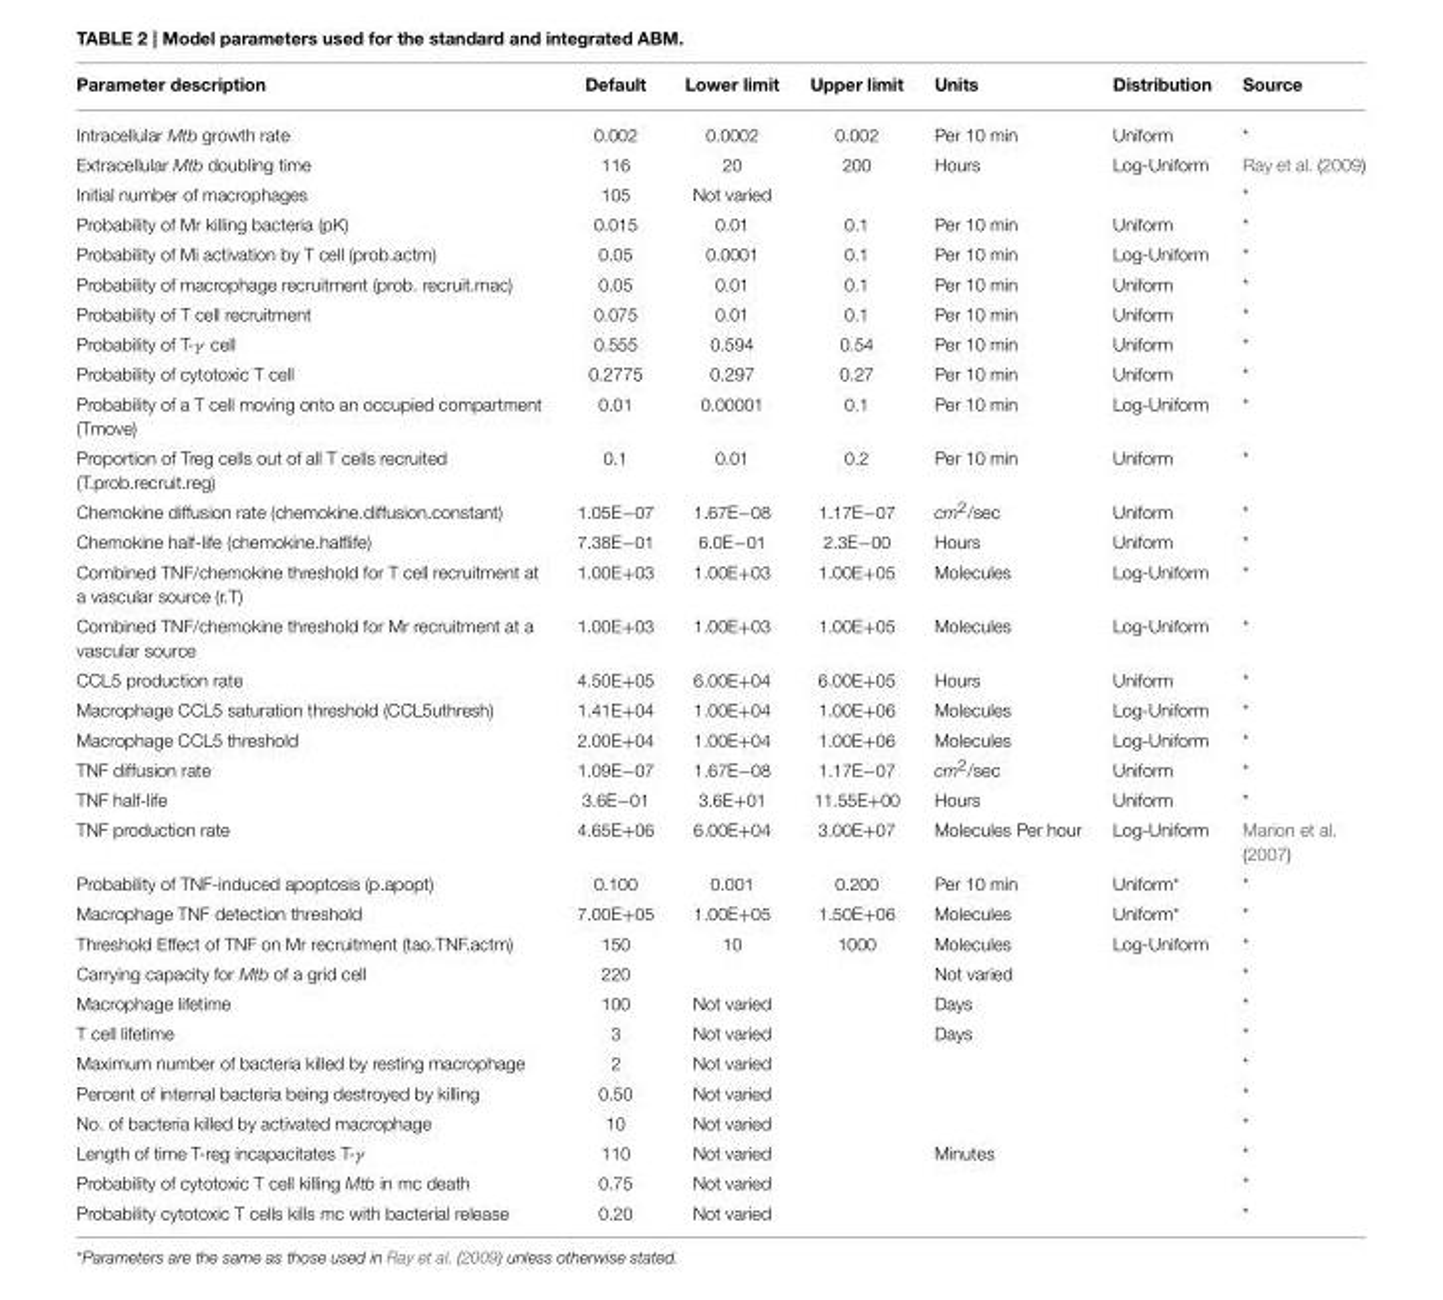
<table><thead><tr><td>Parameter description</td><td>Default</td><td>Lower limit</td><td>Upper limit</td><td>Units</td><td>Distribution</td><td>Source</td></tr></thead><tbody><tr><td>Intracellular Mtb growth rate</td><td>0.002</td><td>0.0002</td><td>0.002</td><td>Per 10 min</td><td>Uniform</td><td>*</td></tr><tr><td>Extracellular Mtb doubling time</td><td>116</td><td>20</td><td>200</td><td>Hours</td><td>Log-Uniform</td><td>Ray et al. (2009)</td></tr><tr><td>Initial number of macrophages</td><td>105</td><td>Not varied</td><td></td><td></td><td></td><td>*</td></tr><tr><td>Probability of Mr killing bacteria (pK)</td><td>0.015</td><td>0.01</td><td>0.1</td><td>Per 10 min</td><td>Uniform</td><td>*</td></tr><tr><td>Probability of Mi activation by T cell (prob.actm)</td><td>0.05</td><td>0.0001</td><td>0.1</td><td>Per 10 min</td><td>Log-Uniform</td><td>*</td></tr><tr><td>Probability of macrophage recruitment (prob. recruit.mac)</td><td>0.05</td><td>0.01</td><td>0.1</td><td>Per 10 min</td><td>Uniform</td><td>*</td></tr><tr><td>Probability of T cell recruitment</td><td>0.075</td><td>0.01</td><td>0.1</td><td>Per 10 min</td><td>Uniform</td><td>*</td></tr><tr><td>Probability of T-γ cell</td><td>0.555</td><td>0.594</td><td>0.54</td><td>Per 10 min</td><td>Uniform</td><td>*</td></tr><tr><td>Probability of cytotoxic T cell</td><td>0.2775</td><td>0.297</td><td>0.27</td><td>Per 10 min</td><td>Uniform</td><td>*</td></tr><tr><td>Probability of a T cell moving onto an occupied compartment (Tmove)</td><td>0.01</td><td>0.00001</td><td>0.1</td><td>Per 10 min</td><td>Log-Uniform</td><td>*</td></tr><tr><td>Proportion of Treg cells out of all T cells recruited (T.prob.recruit.reg)</td><td>0.1</td><td>0.01</td><td>0.2</td><td>Per 10 min</td><td>Uniform</td><td>*</td></tr><tr><td>Chemokine diffusion rate (chemokine.diffusion.constant)</td><td>1.05E−07</td><td>1.67E−08</td><td>1.17E−07</td><td>cm<sup>2</sup>/sec</td><td>Uniform</td><td>*</td></tr><tr><td>Chemokine half-life (chemokine.halflife)</td><td>7.38E−01</td><td>6.0E−01</td><td>2.3E−00</td><td>Hours</td><td>Uniform</td><td>*</td></tr><tr><td>Combined TNF/chemokine threshold for T cell recruitment at a vascular source (r.T)</td><td>1.00E+03</td><td>1.00E+03</td><td>1.00E+05</td><td>Molecules</td><td>Log-Uniform</td><td>*</td></tr><tr><td>Combined TNF/chemokine threshold for Mr recruitment at a vascular source</td><td>1.00E+03</td><td>1.00E+03</td><td>1.00E+05</td><td>Molecules</td><td>Log-Uniform</td><td>*</td></tr><tr><td>CCL5 production rate</td><td>4.50E+05</td><td>6.00E+04</td><td>6.00E+05</td><td>Hours</td><td>Uniform</td><td>*</td></tr><tr><td>Macrophage CCL5 saturation threshold (CCL5uthresh)</td><td>1.41E+04</td><td>1.00E+04</td><td>1.00E+06</td><td>Molecules</td><td>Log-Uniform</td><td>*</td></tr><tr><td>Macrophage CCL5 threshold</td><td>2.00E+04</td><td>1.00E+04</td><td>1.00E+06</td><td>Molecules</td><td>Log-Uniform</td><td>*</td></tr><tr><td>TNF diffusion rate</td><td>1.09E−07</td><td>1.67E−08</td><td>1.17E−07</td><td>cm<sup>2</sup>/sec</td><td>Uniform</td><td>*</td></tr><tr><td>TNF half-life</td><td>3.6E−01</td><td>3.6E+01</td><td>11.55E+00</td><td>Hours</td><td>Uniform</td><td>*</td></tr><tr><td>TNF production rate</td><td>4.65E+06</td><td>6.00E+04</td><td>3.00E+07</td><td>Molecules Per hour</td><td>Log-Uniform</td><td>Marion et al. (2007)</td></tr><tr><td>Probability of TNF-induced apoptosis (p.apopt)</td><td>0.100</td><td>0.001</td><td>0.200</td><td>Per 10 min</td><td>Uniform*</td><td>*</td></tr><tr><td>Macrophage TNF detection threshold</td><td>7.00E+05</td><td>1.00E+05</td><td>1.50E+06</td><td>Molecules</td><td>Uniform*</td><td>*</td></tr><tr><td>Threshold Effect of TNF on Mr recruitment (tao.TNF.actm)</td><td>150</td><td>10</td><td>1000</td><td>Molecules</td><td>Log-Uniform</td><td>*</td></tr><tr><td>Carrying capacity for Mtb of a grid cell</td><td>220</td><td></td><td></td><td>Not varied</td><td></td><td>*</td></tr><tr><td>Macrophage lifetime</td><td>100</td><td>Not varied</td><td></td><td>Days</td><td></td><td>*</td></tr><tr><td>T cell lifetime</td><td>3</td><td>Not varied</td><td></td><td>Days</td><td></td><td>*</td></tr><tr><td>Maximum number of bacteria killed by resting macrophage</td><td>2</td><td>Not varied</td><td></td><td></td><td></td><td>*</td></tr><tr><td>Percent of internal bacteria being destroyed by killing</td><td>0.50</td><td>Not varied</td><td></td><td></td><td></td><td>*</td></tr><tr><td>No. of bacteria killed by activated macrophage</td><td>10</td><td>Not varied</td><td></td><td></td><td></td><td>*</td></tr><tr><td>Length of time T-reg incapacitates T-γ</td><td>110</td><td>Not varied</td><td></td><td>Minutes</td><td></td><td>*</td></tr><tr><td>Probability of cytotoxic T cell killing Mtb in mc death</td><td>0.75</td><td>Not varied</td><td></td><td></td><td></td><td>*</td></tr><tr><td>Probability cytotoxic T cells kills mc with bacterial release</td><td>0.20</td><td>Not varied</td><td></td><td></td><td></td><td>*</td></tr></tbody></table>